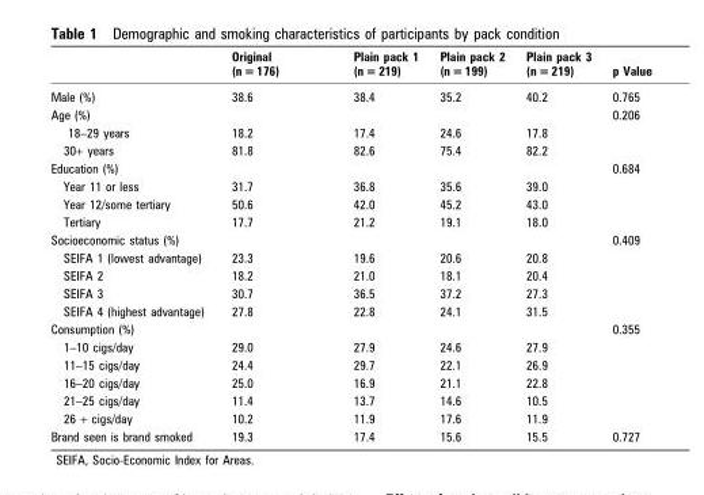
<table><thead><tr><td></td><td>Original (n = 176)</td><td>Plain pack 1 (n = 219)</td><td>Plain pack 2 (n = 199)</td><td>Plain pack 3 (n = 219)</td><td>p Value</td></tr></thead><tbody><tr><td>Male (%)</td><td>38.6</td><td>38.4</td><td>35.2</td><td>40.2</td><td>0.765</td></tr><tr><td>Age (%)</td><td></td><td></td><td></td><td></td><td>0.206</td></tr><tr><td>18–29 years</td><td>18.2</td><td>17.4</td><td>24.6</td><td>17.8</td><td></td></tr><tr><td>30+ years</td><td>81.8</td><td>82.6</td><td>75.4</td><td>82.2</td><td></td></tr><tr><td>Education (%)</td><td></td><td></td><td></td><td></td><td>0.684</td></tr><tr><td>Year 11 or less</td><td>31.7</td><td>36.8</td><td>35.6</td><td>39.0</td><td></td></tr><tr><td>Year 12/some tertiary</td><td>50.6</td><td>42.0</td><td>45.2</td><td>43.0</td><td></td></tr><tr><td>Tertiary</td><td>17.7</td><td>21.2</td><td>19.1</td><td>18.0</td><td></td></tr><tr><td>Socioeconomic status (%)</td><td></td><td></td><td></td><td></td><td>0.409</td></tr><tr><td>SEIFA 1 (lowest advantage)</td><td>23.3</td><td>19.6</td><td>20.6</td><td>20.8</td><td></td></tr><tr><td>SEIFA 2</td><td>18.2</td><td>21.0</td><td>18.1</td><td>20.4</td><td></td></tr><tr><td>SEIFA 3</td><td>30.7</td><td>36.5</td><td>37.2</td><td>27.3</td><td></td></tr><tr><td>SEIFA 4 (highest advantage)</td><td>27.8</td><td>22.8</td><td>24.1</td><td>31.5</td><td></td></tr><tr><td>Consumption (%)</td><td></td><td></td><td></td><td></td><td>0.355</td></tr><tr><td>1–10 cigs/day</td><td>29.0</td><td>27.9</td><td>24.6</td><td>27.9</td><td></td></tr><tr><td>11–15 cigs/day</td><td>24.4</td><td>29.7</td><td>22.1</td><td>26.9</td><td></td></tr><tr><td>16–20 cigs/day</td><td>25.0</td><td>16.9</td><td>21.1</td><td>22.8</td><td></td></tr><tr><td>21–25 cigs/day</td><td>11.4</td><td>13.7</td><td>14.6</td><td>10.5</td><td></td></tr><tr><td>26 + cigs/day</td><td>10.2</td><td>11.9</td><td>17.6</td><td>11.9</td><td></td></tr><tr><td>Brand seen is brand smoked</td><td>19.3</td><td>17.4</td><td>15.6</td><td>15.5</td><td>0.727</td></tr></tbody></table>